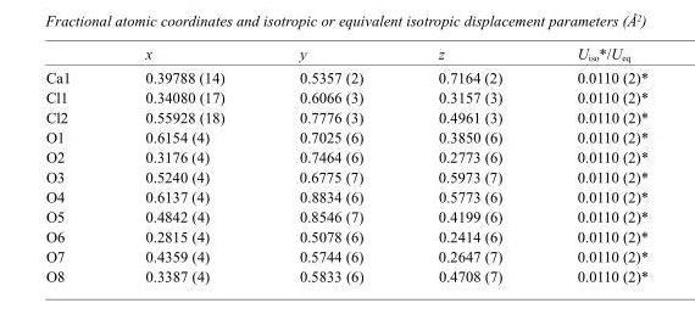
<table><thead><tr><td></td><td>x</td><td>y</td><td>z</td><td>U<sub>iso</sub>*/U<sub>eq</sub></td></tr></thead><tbody><tr><td>Ca1</td><td>0.39788 (14)</td><td>0.5357 (2)</td><td>0.7164 (2)</td><td>0.0110 (2)*</td></tr><tr><td>Cl1</td><td>0.34080 (17)</td><td>0.6066 (3)</td><td>0.3157 (3)</td><td>0.0110 (2)*</td></tr><tr><td>Cl2</td><td>0.55928 (18)</td><td>0.7776 (3)</td><td>0.4961 (3)</td><td>0.0110 (2)*</td></tr><tr><td>O1</td><td>0.6154 (4)</td><td>0.7025 (6)</td><td>0.3850 (6)</td><td>0.0110 (2)*</td></tr><tr><td>O2</td><td>0.3176 (4)</td><td>0.7464 (6)</td><td>0.2773 (6)</td><td>0.0110 (2)*</td></tr><tr><td>O3</td><td>0.5240 (4)</td><td>0.6775 (7)</td><td>0.5973 (7)</td><td>0.0110 (2)*</td></tr><tr><td>O4</td><td>0.6137 (4)</td><td>0.8834 (6)</td><td>0.5773 (6)</td><td>0.0110 (2)*</td></tr><tr><td>O5</td><td>0.4842 (4)</td><td>0.8546 (7)</td><td>0.4199 (6)</td><td>0.0110 (2)*</td></tr><tr><td>O6</td><td>0.2815 (4)</td><td>0.5078 (6)</td><td>0.2414 (6)</td><td>0.0110 (2)*</td></tr><tr><td>O7</td><td>0.4359 (4)</td><td>0.5744 (6)</td><td>0.2647 (7)</td><td>0.0110 (2)*</td></tr><tr><td>O8</td><td>0.3387 (4)</td><td>0.5833 (6)</td><td>0.4708 (7)</td><td>0.0110 (2)*</td></tr></tbody></table>